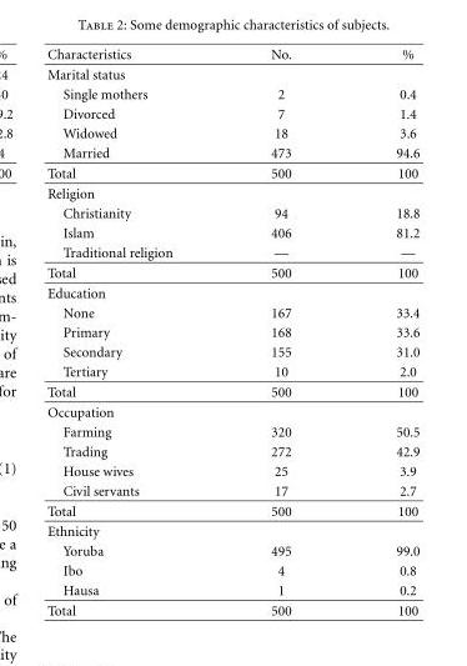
<table><thead><tr><td>Characteristics</td><td>No.</td><td>%</td></tr></thead><tbody><tr><td colspan="3">Marital status</td></tr><tr><td>Single mothers</td><td>2</td><td>0.4</td></tr><tr><td>Divorced</td><td>7</td><td>1.4</td></tr><tr><td>Widowed</td><td>18</td><td>3.6</td></tr><tr><td>Married</td><td>473</td><td>94.6</td></tr><tr><td>Total</td><td>500</td><td>100</td></tr><tr><td colspan="3">Religion</td></tr><tr><td>Christianity</td><td>94</td><td>18.8</td></tr><tr><td>Islam</td><td>406</td><td>81.2</td></tr><tr><td>Traditional religion</td><td>—</td><td>—</td></tr><tr><td>Total</td><td>500</td><td>100</td></tr><tr><td colspan="3">Education</td></tr><tr><td>None</td><td>167</td><td>33.4</td></tr><tr><td>Primary</td><td>168</td><td>33.6</td></tr><tr><td>Secondary</td><td>155</td><td>31.0</td></tr><tr><td>Tertiary</td><td>10</td><td>2.0</td></tr><tr><td>Total</td><td>500</td><td>100</td></tr><tr><td colspan="3">Occupation</td></tr><tr><td>Farming</td><td>320</td><td>50.5</td></tr><tr><td>Trading</td><td>272</td><td>42.9</td></tr><tr><td>House wives</td><td>25</td><td>3.9</td></tr><tr><td>Civil servants</td><td>17</td><td>2.7</td></tr><tr><td>Total</td><td>500</td><td>100</td></tr><tr><td colspan="3">Ethnicity</td></tr><tr><td>Yoruba</td><td>495</td><td>99.0</td></tr><tr><td>Ibo</td><td>4</td><td>0.8</td></tr><tr><td>Hausa</td><td>1</td><td>0.2</td></tr><tr><td>Total</td><td>500</td><td>100</td></tr></tbody></table>